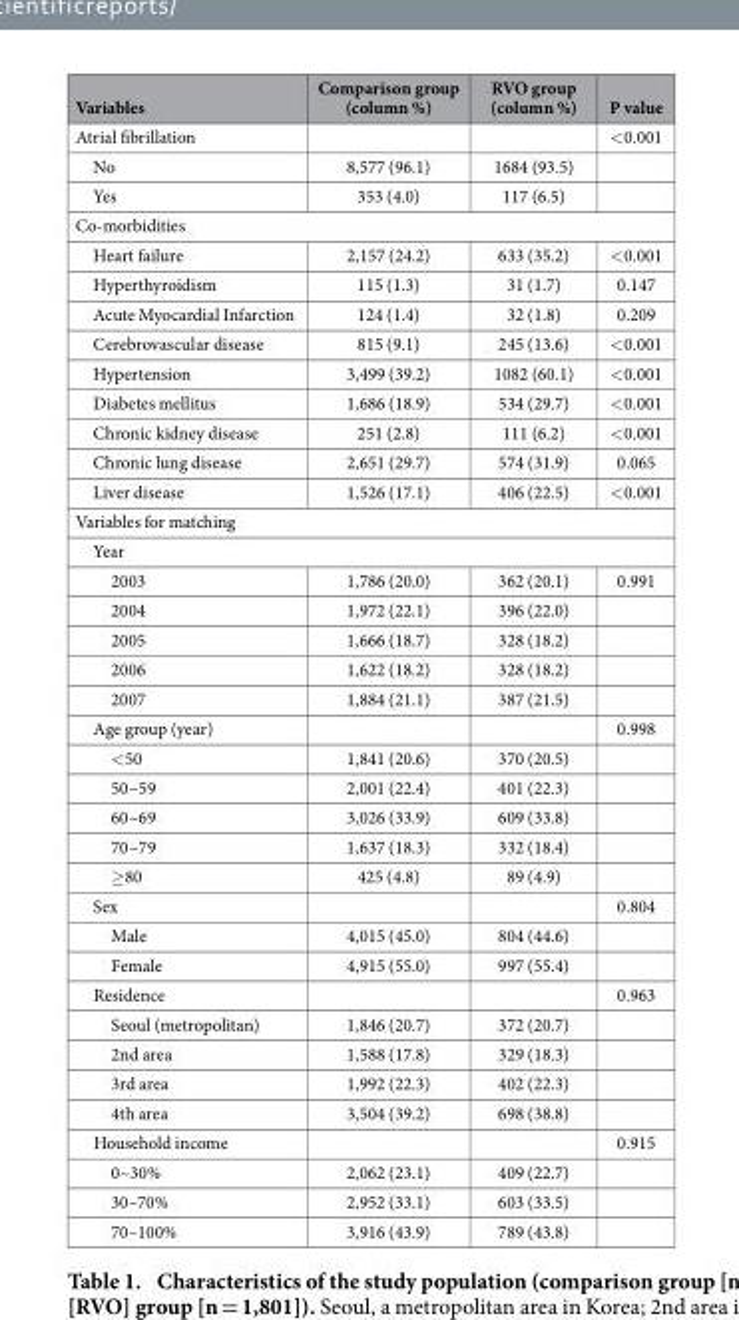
<table><thead><tr><td>Variables</td><td>Comparison group (column %)</td><td>RVO group (column %)</td><td>P value</td></tr></thead><tbody><tr><td>Atrial fibrillation</td><td></td><td></td><td>&lt; 0.001</td></tr><tr><td>No</td><td>8,577 (96.1)</td><td>1684 (93.5)</td><td></td></tr><tr><td>Yes</td><td>353 (4.0)</td><td>117 (6.5)</td><td></td></tr><tr><td colspan="4">Co-morbidities</td></tr><tr><td>Heart failure</td><td>2,157 (24.2)</td><td>633 (35.2)</td><td>&lt; 0.001</td></tr><tr><td>Hyperthyroidism</td><td>115 (1.3)</td><td>31 (1.7)</td><td>0.147</td></tr><tr><td>Acute Myocardial Infarction</td><td>124 (1.4)</td><td>32 (1.8)</td><td>0.209</td></tr><tr><td>Cerebrovascular disease</td><td>815 (9.1)</td><td>245 (13.6)</td><td>&lt; 0.001</td></tr><tr><td>Hypertension</td><td>3,499 (39.2)</td><td>1082 (60.1)</td><td>&lt; 0.001</td></tr><tr><td>Diabetes mellitus</td><td>1,686 (18.9)</td><td>534 (29.7)</td><td>&lt; 0.001</td></tr><tr><td>Chronic kidney disease</td><td>251 (2.8)</td><td>111 (6.2)</td><td>&lt; 0.001</td></tr><tr><td>Chronic lung disease</td><td>2,651 (29.7)</td><td>574 (31.9)</td><td>0.065</td></tr><tr><td>Liver disease</td><td>1,526 (17.1)</td><td>406 (22.5)</td><td>&lt; 0.001</td></tr><tr><td colspan="4">Variables for matching</td></tr><tr><td colspan="4">Year</td></tr><tr><td>2003</td><td>1,786 (20.0)</td><td>362 (20.1)</td><td>0.991</td></tr><tr><td>2004</td><td>1,972 (22.1)</td><td>396 (22.0)</td><td></td></tr><tr><td>2005</td><td>1,666 (18.7)</td><td>328 (18.2)</td><td></td></tr><tr><td>2006</td><td>1,622 (18.2)</td><td>328 (18.2)</td><td></td></tr><tr><td>2007</td><td>1,884 (21.1)</td><td>387 (21.5)</td><td></td></tr><tr><td>Age group (year)</td><td></td><td></td><td>0.998</td></tr><tr><td>&lt; 50</td><td>1,841 (20.6)</td><td>370 (20.5)</td><td></td></tr><tr><td>50~59</td><td>2,001 (22.4)</td><td>401 (22.3)</td><td></td></tr><tr><td>60~69</td><td>3,026 (33.9)</td><td>609 (33.8)</td><td></td></tr><tr><td>70~79</td><td>1,637 (18.3)</td><td>332 (18.4)</td><td></td></tr><tr><td>≥ 80</td><td>425 (4.8)</td><td>89 (4.9)</td><td></td></tr><tr><td>Sex</td><td></td><td></td><td>0.804</td></tr><tr><td>Male</td><td>4,015 (45.0)</td><td>804 (44.6)</td><td></td></tr><tr><td>Female</td><td>4,915 (55.0)</td><td>997 (55.4)</td><td></td></tr><tr><td>Residence</td><td></td><td></td><td>0.963</td></tr><tr><td>Seoul (metropolitan)</td><td>1,846 (20.7)</td><td>372 (20.7)</td><td></td></tr><tr><td>2nd area</td><td>1,588 (17.8)</td><td>329 (18.3)</td><td></td></tr><tr><td>3rd area</td><td>1,992 (22.3)</td><td>402 (22.3)</td><td></td></tr><tr><td>4th area</td><td>3,504 (39.2)</td><td>698 (38.8)</td><td></td></tr><tr><td>Household income</td><td></td><td></td><td>0.915</td></tr><tr><td>0~30%</td><td>2,062 (23.1)</td><td>409 (22.7)</td><td></td></tr><tr><td>30–70%</td><td>2,952 (33.1)</td><td>603 (33.5)</td><td></td></tr><tr><td>70–100%</td><td>3,916 (43.9)</td><td>789 (43.8)</td><td></td></tr></tbody></table>